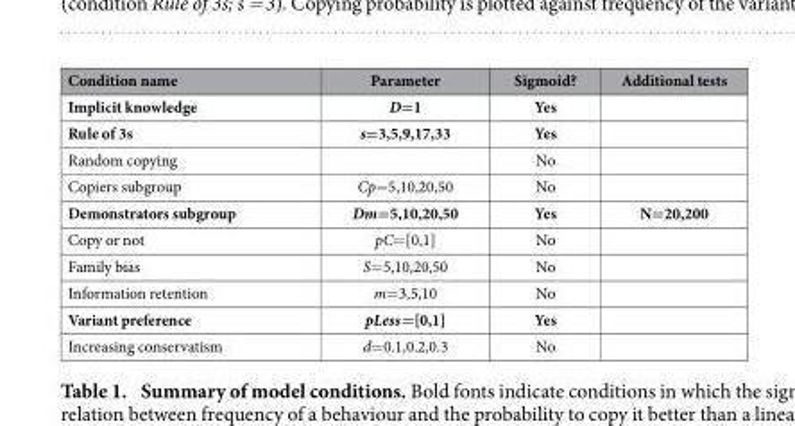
<table><thead><tr><td>Condition name</td><td>Parameter</td><td>Sigmoid?</td><td>Additional tests</td></tr></thead><tbody><tr><td>Implicit knowledge</td><td>D= 1</td><td>Yes</td><td></td></tr><tr><td>Rule of 3s</td><td>s= 3,5,9,17,33</td><td>Yes</td><td></td></tr><tr><td>Random copying</td><td></td><td>No</td><td></td></tr><tr><td>Copiers subgroup</td><td>Cp= 5,10,20,50</td><td>No</td><td></td></tr><tr><td>Demonstrators subgroup</td><td>Dm= 5,10,20,50</td><td>Yes</td><td>N= 20,200</td></tr><tr><td>Copy or not</td><td>pC= [0,1]</td><td>No</td><td></td></tr><tr><td>Family bias</td><td>S= 5,10,20,50</td><td>No</td><td></td></tr><tr><td>Information retention</td><td>m= 3,5,10</td><td>No</td><td></td></tr><tr><td>Variant preference</td><td>pLess=[0,1]</td><td>Yes</td><td></td></tr><tr><td>Increasing conservatism</td><td>d= 0.1,0.2,0.3</td><td>No</td><td></td></tr></tbody></table>